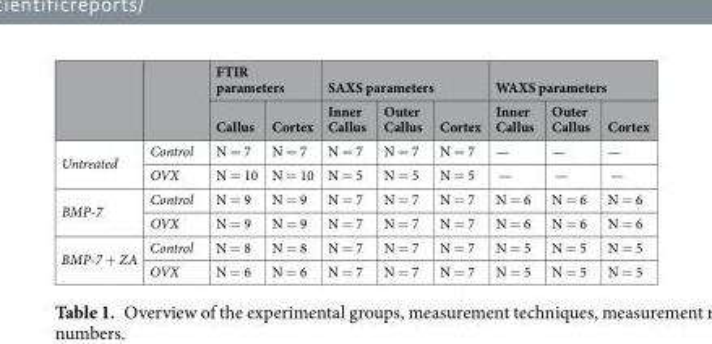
<table><thead><tr><td rowspan="2"></td><td rowspan="2"></td><td colspan="2">FTIR parameters</td><td colspan="3">SAXS parameters</td><td colspan="3">WAXS parameters</td></tr><tr><td>Callus</td><td>Cortex</td><td>Inner Callus</td><td>Outer Callus</td><td>Cortex</td><td>Inner Callus</td><td>Outer Callus</td><td>Cortex</td></tr></thead><tbody><tr><td rowspan="2">Untreated</td><td>Control</td><td>N = 7</td><td>N = 7</td><td>N = 7</td><td>N = 7</td><td>N = 7</td><td>—</td><td>—</td><td>—</td></tr><tr><td>OVX</td><td>N = 10</td><td>N = 10</td><td>N = 5</td><td>N = 5</td><td>N = 5</td><td>—</td><td>—</td><td>—</td></tr><tr><td rowspan="2">BMP-7</td><td>Control</td><td>N = 9</td><td>N = 9</td><td>N = 7</td><td>N = 7</td><td>N = 7</td><td>N = 6</td><td>N = 6</td><td>N = 6</td></tr><tr><td>OVX</td><td>N = 9</td><td>N = 9</td><td>N = 7</td><td>N = 7</td><td>N = 7</td><td>N = 6</td><td>N = 6</td><td>N = 6</td></tr><tr><td rowspan="2">BMP-7 + ZA</td><td>Control</td><td>N = 8</td><td>N = 8</td><td>N = 7</td><td>N = 7</td><td>N = 7</td><td>N = 5</td><td>N = 5</td><td>N = 5</td></tr><tr><td>OVX</td><td>N = 6</td><td>N = 6</td><td>N = 7</td><td>N = 7</td><td>N = 7</td><td>N = 5</td><td>N = 5</td><td>N = 5</td></tr></tbody></table>